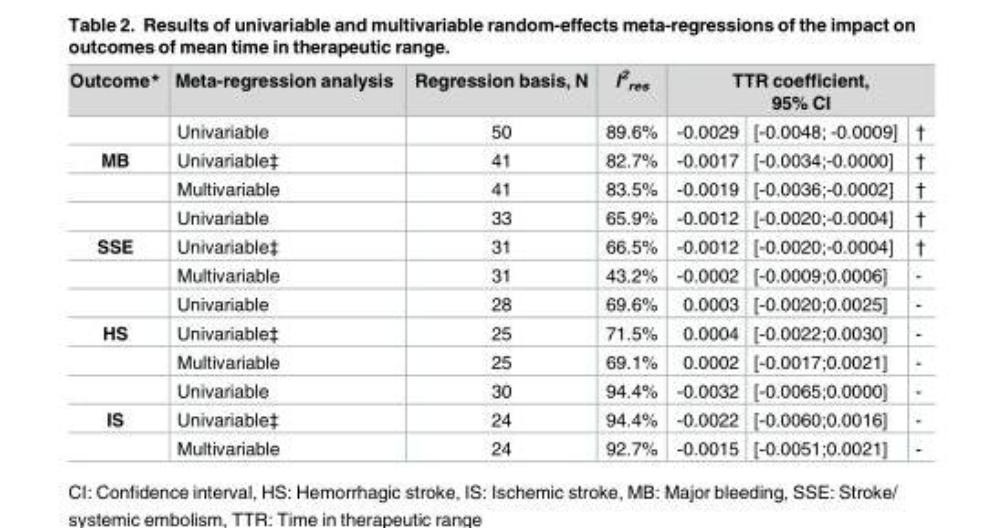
<table><thead><tr><td rowspan="2">Outcome*</td><td rowspan="2">Meta-regression analysis Univariable</td><td rowspan="2">Regression basis, N 50</td><td rowspan="2">I<sup>2</sup> <sub>res</sub> 89.6%</td><td colspan="3">TTR coefficient, 95% CI</td></tr><tr><td>-0.0029</td><td>[-0.0048; -0.0009]</td><td>†</td></tr></thead><tbody><tr><td rowspan="3">MB</td><td>Univariable‡</td><td>41</td><td>82.7%</td><td>-0.0017</td><td>[-0.0034;-0.0000]</td><td>†</td></tr><tr><td>Multivariable</td><td>41</td><td>83.5%</td><td>-0.0019</td><td>[-0.0036;-0.0002]</td><td>†</td></tr><tr><td>Univariable</td><td>33</td><td>65.9%</td><td>-0.0012</td><td>[-0.0020;-0.0004]</td><td>†</td></tr><tr><td rowspan="3">SSE</td><td>Univariable‡</td><td>31</td><td>66.5%</td><td>-0.0012</td><td>[-0.0020;-0.0004]</td><td>†</td></tr><tr><td>Multivariable</td><td>31</td><td>43.2%</td><td>-0.0002</td><td>[-0.0009;0.0006]</td><td>-</td></tr><tr><td>Univariable</td><td>28</td><td>69.6%</td><td>0.0003</td><td>[-0.0020;0.0025]</td><td>-</td></tr><tr><td rowspan="3">HS</td><td>Univariable‡</td><td>25</td><td>71.5%</td><td>0.0004</td><td>[-0.0022;0.0030]</td><td>-</td></tr><tr><td>Multivariable</td><td>25</td><td>69.1%</td><td>0.0002</td><td>[-0.0017;0.0021]</td><td>-</td></tr><tr><td>Univariable</td><td>30</td><td>94.4%</td><td>-0.0032</td><td>[-0.0065;0.0000]</td><td>-</td></tr><tr><td rowspan="2">IS</td><td>Univariable‡</td><td>24</td><td>94.4%</td><td>-0.0022</td><td>[-0.0060;0.0016]</td><td>-</td></tr><tr><td>Multivariable</td><td>24</td><td>92.7%</td><td>-0.0015</td><td>[-0.0051;0.0021]</td><td>-</td></tr></tbody></table>